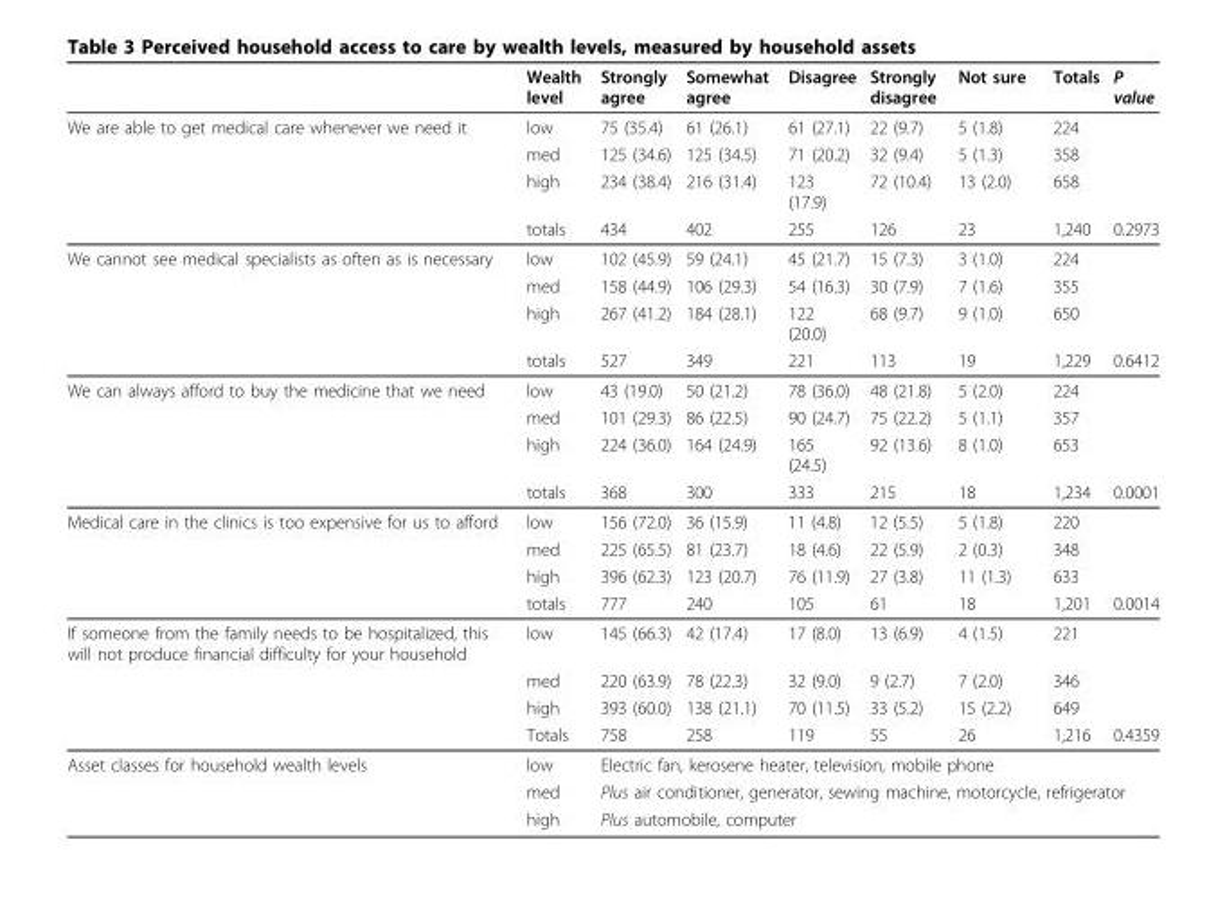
<table><thead><tr><td></td><td>Wealth level</td><td>Strongly agree</td><td>Somewhat agree</td><td>Disagree</td><td>Strongly disagree</td><td>Not sure</td><td>Totals</td><td>P value</td></tr></thead><tbody><tr><td rowspan="4">We are able to get medical care whenever we need it</td><td>low</td><td>75 (35.4)</td><td>61 (26.1)</td><td>61 (27.1)</td><td>22 (9.7)</td><td>5 (1.8)</td><td>224</td><td></td></tr><tr><td>med</td><td>125 (34.6)</td><td>125 (34.5)</td><td>71 (20.2)</td><td>32 (9.4)</td><td>5 (1.3)</td><td>358</td><td></td></tr><tr><td>high</td><td>234 (38.4)</td><td>216 (31.4)</td><td>123 (17.9)</td><td>72 (10.4)</td><td>13 (2.0)</td><td>658</td><td></td></tr><tr><td>totals</td><td>434</td><td>402</td><td>255</td><td>126</td><td>23</td><td>1,240</td><td>0.2973</td></tr><tr><td rowspan="4">We cannot see medical specialists as often as is necessary</td><td>low</td><td>102 (45.9)</td><td>59 (24.1)</td><td>45 (21.7)</td><td>15 (7.3)</td><td>3 (1.0)</td><td>224</td><td></td></tr><tr><td>med</td><td>158 (44.9)</td><td>106 (29.3)</td><td>54 (16.3)</td><td>30 (7.9)</td><td>7 (1.6)</td><td>355</td><td></td></tr><tr><td>high</td><td>267 (41.2)</td><td>184 (28.1)</td><td>122 (20.0)</td><td>68 (9.7)</td><td>9 (1.0)</td><td>650</td><td></td></tr><tr><td>totals</td><td>527</td><td>349</td><td>221</td><td>113</td><td>19</td><td>1,229</td><td>0.6412</td></tr><tr><td rowspan="4">We can always afford to buy the medicine that we need</td><td>low</td><td>43 (19.0)</td><td>50 (21.2)</td><td>78 (36.0)</td><td>48 (21.8)</td><td>5 (2.0)</td><td>224</td><td></td></tr><tr><td>med</td><td>101 (29.3)</td><td>86 (22.5)</td><td>90 (24.7)</td><td>75 (22.2)</td><td>5 (1.1)</td><td>357</td><td></td></tr><tr><td>high</td><td>224 (36.0)</td><td>164 (24.9)</td><td>165 (24.5)</td><td>92 (13.6)</td><td>8 (1.0)</td><td>653</td><td></td></tr><tr><td>totals</td><td>368</td><td>300</td><td>333</td><td>215</td><td>18</td><td>1,234</td><td>0.0001</td></tr><tr><td rowspan="4">Medical care in the clinics is too expensive for us to afford</td><td>low</td><td>156 (72.0)</td><td>36 (15.9)</td><td>11 (4.8)</td><td>12 (5.5)</td><td>5 (1.8)</td><td>220</td><td></td></tr><tr><td>med</td><td>225 (65.5)</td><td>81 (23.7)</td><td>18 (4.6)</td><td>22 (5.9)</td><td>2 (0.3)</td><td>348</td><td></td></tr><tr><td>high</td><td>396 (62.3)</td><td>123 (20.7)</td><td>76 (11.9)</td><td>27 (3.8)</td><td>11 (1.3)</td><td>633</td><td></td></tr><tr><td>totals</td><td>777</td><td>240</td><td>105</td><td>61</td><td>18</td><td>1,201</td><td>0.0014</td></tr><tr><td rowspan="4">If someone from the family needs to be hospitalized, this will not produce financial difficulty for your household</td><td>low</td><td>145 (66.3)</td><td>42 (17.4)</td><td>17 (8.0)</td><td>13 (6.9)</td><td>4 (1.5)</td><td>221</td><td></td></tr><tr><td>med</td><td>220 (63.9)</td><td>78 (22.3)</td><td>32 (9.0)</td><td>9 (2.7)</td><td>7 (2.0)</td><td>346</td><td></td></tr><tr><td>high</td><td>393 (60.0)</td><td>138 (21.1)</td><td>70 (11.5)</td><td>33 (5.2)</td><td>15 (2.2)</td><td>649</td><td></td></tr><tr><td>Totals</td><td>758</td><td>258</td><td>119</td><td>55</td><td>26</td><td>1,216</td><td>0.4359</td></tr><tr><td rowspan="3">Asset classes for household wealth levels</td><td>low</td><td colspan="7">Electric fan, kerosene heater, television, mobile phone</td></tr><tr><td>med</td><td colspan="7">Plus air conditioner, generator, sewing machine, motorcycle, refrigerator</td></tr><tr><td>high</td><td colspan="7">Plus automobile, computer</td></tr></tbody></table>